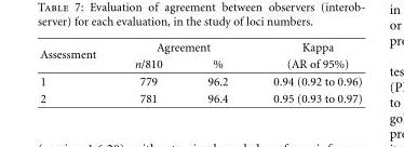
<table><thead><tr><td rowspan="2">Assessment</td><td colspan="2">Agreement</td><td rowspan="2">Kappa (AR of 95%)</td></tr><tr><td>n/810</td><td>%</td></tr></thead><tbody><tr><td>1</td><td>779</td><td>96.2</td><td>0.94 (0.92 to 0.96)</td></tr><tr><td>2</td><td>781</td><td>96.4</td><td>0.95 (0.93 to 0.97)</td></tr></tbody></table>